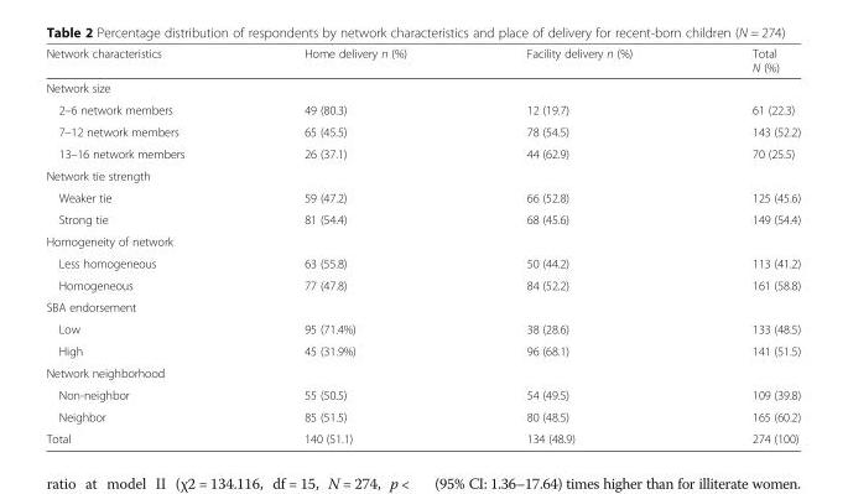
<table><thead><tr><td>Network characteristics</td><td>Home delivery n (%)</td><td>Facility delivery n (%)</td><td>Total N (%)</td></tr></thead><tbody><tr><td colspan="4">Network size</td></tr><tr><td>2–6 network members</td><td>49 (80.3)</td><td>12 (19.7)</td><td>61 (22.3)</td></tr><tr><td>7–12 network members</td><td>65 (45.5)</td><td>78 (54.5)</td><td>143 (52.2)</td></tr><tr><td>13–16 network members</td><td>26 (37.1)</td><td>44 (62.9)</td><td>70 (25.5)</td></tr><tr><td colspan="4">Network tie strength</td></tr><tr><td>Weaker tie</td><td>59 (47.2)</td><td>66 (52.8)</td><td>125 (45.6)</td></tr><tr><td>Strong tie</td><td>81 (54.4)</td><td>68 (45.6)</td><td>149 (54.4)</td></tr><tr><td colspan="4">Homogeneity of network</td></tr><tr><td>Less homogeneous</td><td>63 (55.8)</td><td>50 (44.2)</td><td>113 (41.2)</td></tr><tr><td>Homogeneous</td><td>77 (47.8)</td><td>84 (52.2)</td><td>161 (58.8)</td></tr><tr><td colspan="4">SBA endorsement</td></tr><tr><td>Low</td><td>95 (71.4%)</td><td>38 (28.6)</td><td>133 (48.5)</td></tr><tr><td>High</td><td>45 (31.9%)</td><td>96 (68.1)</td><td>141 (51.5)</td></tr><tr><td colspan="4">Network neighborhood</td></tr><tr><td>Non-neighbor</td><td>55 (50.5)</td><td>54 (49.5)</td><td>109 (39.8)</td></tr><tr><td>Neighbor</td><td>85 (51.5)</td><td>80 (48.5)</td><td>165 (60.2)</td></tr><tr><td>Total</td><td>140 (51.1)</td><td>134 (48.9)</td><td>274 (100)</td></tr></tbody></table>